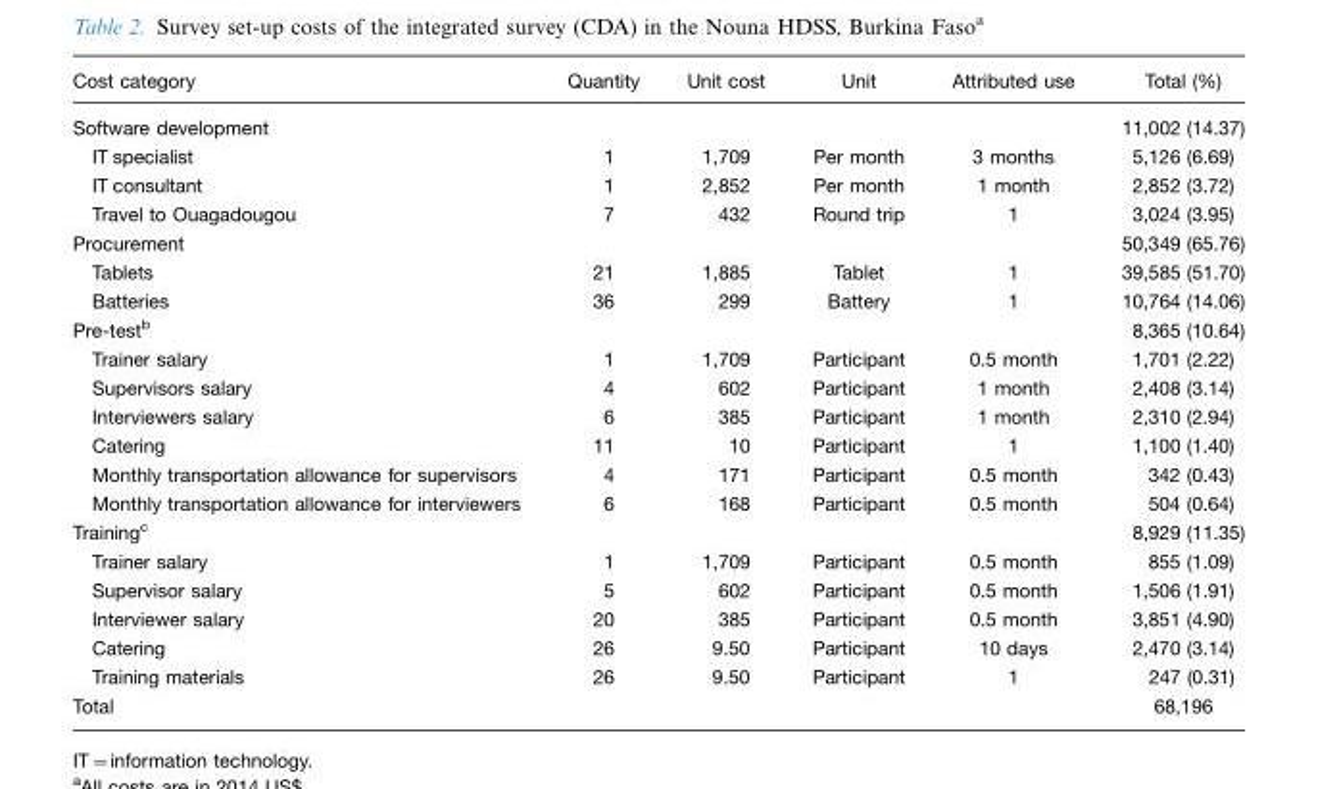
<table><thead><tr><td>Cost category</td><td>Quantity</td><td>Unit cost</td><td>Unit</td><td>Attributed use</td><td>Total (%)</td></tr></thead><tbody><tr><td>Software development</td><td></td><td></td><td></td><td></td><td>11,002 (14.37)</td></tr><tr><td>IT specialist</td><td>1</td><td>1,709</td><td>Per month</td><td>3 months</td><td>5,126 (6.69)</td></tr><tr><td>IT consultant</td><td>1</td><td>2,852</td><td>Per month</td><td>1 month</td><td>2,852 (3.72)</td></tr><tr><td>Travel to Ouagadougou</td><td>7</td><td>432</td><td>Round trip</td><td>1</td><td>3,024 (3.95)</td></tr><tr><td>Procurement</td><td></td><td></td><td></td><td></td><td>50,349 (65.76)</td></tr><tr><td>Tablets</td><td>21</td><td>1,885</td><td>Tablet</td><td>1</td><td>39,585 (51.70)</td></tr><tr><td>Batteries</td><td>36</td><td>299</td><td>Battery</td><td>1</td><td>10,764 (14.06)</td></tr><tr><td>Pre-test<sup>b</sup></td><td></td><td></td><td></td><td></td><td>8,365 (10.64)</td></tr><tr><td>Trainer salary</td><td>1</td><td>1,709</td><td>Participant</td><td>0.5 month</td><td>1,701 (2.22)</td></tr><tr><td>Supervisors salary</td><td>4</td><td>602</td><td>Participant</td><td>1 month</td><td>2,408 (3.14)</td></tr><tr><td>Interviewers salary</td><td>6</td><td>385</td><td>Participant</td><td>1 month</td><td>2,310 (2.94)</td></tr><tr><td>Catering</td><td>11</td><td>10</td><td>Participant</td><td>1</td><td>1,100 (1.40)</td></tr><tr><td>Monthly transportation allowance for supervisors</td><td>4</td><td>171</td><td>Participant</td><td>0.5 month</td><td>342 (0.43)</td></tr><tr><td>Monthly transportation allowance for interviewers</td><td>6</td><td>168</td><td>Participant</td><td>0.5 month</td><td>504 (0.64)</td></tr><tr><td>Training<sup>c</sup></td><td></td><td></td><td></td><td></td><td>8,929 (11.35)</td></tr><tr><td>Trainer salary</td><td>1</td><td>1,709</td><td>Participant</td><td>0.5 month</td><td>855 (1.09)</td></tr><tr><td>Supervisor salary</td><td>5</td><td>602</td><td>Participant</td><td>0.5 month</td><td>1,506 (1.91)</td></tr><tr><td>Interviewer salary</td><td>20</td><td>385</td><td>Participant</td><td>0.5 month</td><td>3,851 (4.90)</td></tr><tr><td>Catering</td><td>26</td><td>9.50</td><td>Participant</td><td>10 days</td><td>2,470 (3.14)</td></tr><tr><td>Training materials</td><td>26</td><td>9.50</td><td>Participant</td><td>1</td><td>247 (0.31)</td></tr><tr><td>Total</td><td></td><td></td><td></td><td></td><td>68,196</td></tr></tbody></table>